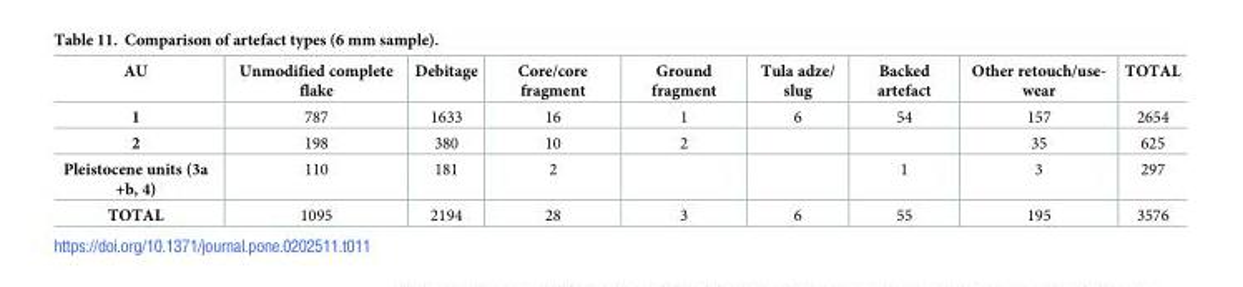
<table><thead><tr><td>AU</td><td>Unmodified complete flake</td><td>Debitage</td><td>Core/core fragment</td><td>Ground fragment</td><td>Tula adze/ slug</td><td>Backed artefact</td><td>Other retouch/use- wear</td><td>TOTAL</td></tr></thead><tbody><tr><td>1</td><td>787</td><td>1633</td><td>16</td><td>1</td><td>6</td><td>54</td><td>157</td><td>2654</td></tr><tr><td>2</td><td>198</td><td>380</td><td>10</td><td>2</td><td></td><td></td><td>35</td><td>625</td></tr><tr><td>Pleistocene units (3a +b, 4)</td><td>110</td><td>181</td><td>2</td><td></td><td></td><td>1</td><td>3</td><td>297</td></tr><tr><td>TOTAL</td><td>1095</td><td>2194</td><td>28</td><td>3</td><td>6</td><td>55</td><td>195</td><td>3576</td></tr></tbody></table>